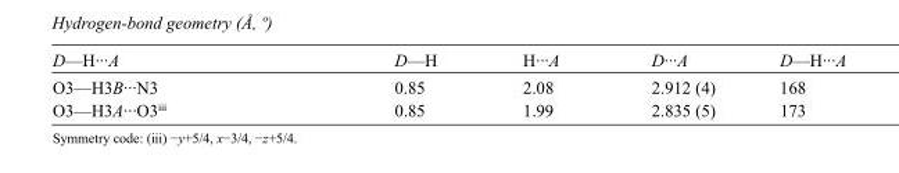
<table><tbody><tr><td>D—H···A</td><td>D—H</td><td>H···A</td><td>D···A</td><td>D—H···A</td></tr><tr><td>O3—H3B···N3</td><td>0.85</td><td>2.08</td><td>2.912 (4)</td><td>168</td></tr><tr><td>O3—H3A···O3<sup>iii</sup></td><td>0.85</td><td>1.99</td><td>2.835 (5)</td><td>173</td></tr></tbody></table>